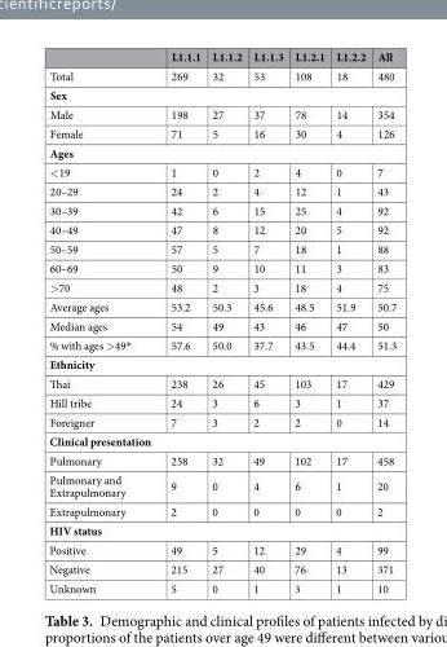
<table><thead><tr><td></td><td>L1.1.1</td><td>L1.1.2</td><td>L1.1.3</td><td>L1.2.1</td><td>L1.2.2</td><td>All</td></tr></thead><tbody><tr><td>Total</td><td>269</td><td>32</td><td>53</td><td>108</td><td>18</td><td>480</td></tr><tr><td colspan="7">Sex</td></tr><tr><td>Male</td><td>198</td><td>27</td><td>37</td><td>78</td><td>14</td><td>354</td></tr><tr><td>Female</td><td>71</td><td>5</td><td>16</td><td>30</td><td>4</td><td>126</td></tr><tr><td colspan="7">Ages</td></tr><tr><td>&lt;19</td><td>1</td><td>0</td><td>2</td><td>4</td><td>0</td><td>7</td></tr><tr><td>20–29</td><td>24</td><td>2</td><td>4</td><td>12</td><td>1</td><td>43</td></tr><tr><td>30–39</td><td>42</td><td>6</td><td>15</td><td>25</td><td>4</td><td>92</td></tr><tr><td>40–49</td><td>47</td><td>8</td><td>12</td><td>20</td><td>5</td><td>92</td></tr><tr><td>50–59</td><td>57</td><td>5</td><td>7</td><td>18</td><td>1</td><td>88</td></tr><tr><td>60–69</td><td>50</td><td>9</td><td>10</td><td>11</td><td>3</td><td>83</td></tr><tr><td>&gt;70</td><td>48</td><td>2</td><td>3</td><td>18</td><td>4</td><td>75</td></tr><tr><td>Average ages</td><td>53.2</td><td>50.3</td><td>45.6</td><td>48.5</td><td>51.9</td><td>50.7</td></tr><tr><td>Median ages</td><td>54</td><td>49</td><td>43</td><td>46</td><td>47</td><td>50</td></tr><tr><td>% with ages &gt;49*</td><td>57.6</td><td>50.0</td><td>37.7</td><td>43.5</td><td>44.4</td><td>51.3</td></tr><tr><td colspan="7">Ethnicity</td></tr><tr><td>Thai</td><td>238</td><td>26</td><td>45</td><td>103</td><td>17</td><td>429</td></tr><tr><td>Hill tribe</td><td>24</td><td>3</td><td>6</td><td>3</td><td>1</td><td>37</td></tr><tr><td>Foreigner</td><td>7</td><td>3</td><td>2</td><td>2</td><td>0</td><td>14</td></tr><tr><td colspan="7">Clinical presentation</td></tr><tr><td>Pulmonary</td><td>258</td><td>32</td><td>49</td><td>102</td><td>17</td><td>458</td></tr><tr><td>Pulmonary and Extrapulmonary</td><td>9</td><td>0</td><td>4</td><td>6</td><td>1</td><td>20</td></tr><tr><td>Extrapulmonary</td><td>2</td><td>0</td><td>0</td><td>0</td><td>0</td><td>2</td></tr><tr><td colspan="7">HIV status</td></tr><tr><td>Positive</td><td>49</td><td>5</td><td>12</td><td>29</td><td>4</td><td>99</td></tr><tr><td>Negative</td><td>215</td><td>27</td><td>40</td><td>76</td><td>13</td><td>371</td></tr><tr><td>Unknown</td><td>5</td><td>0</td><td>1</td><td>3</td><td>1</td><td>10</td></tr></tbody></table>